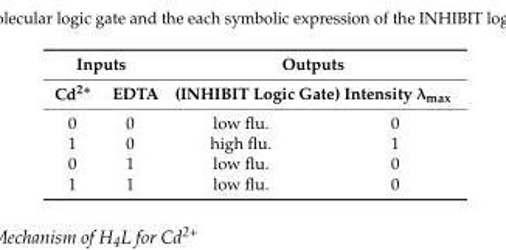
<table><thead><tr><td colspan="2">Inputs</td><td rowspan="2" colspan="2">Outputs (INHIBIT Logic Gate) Intensity λmax</td></tr><tr><td rowspan="2">Cd2+ 0</td><td rowspan="2">EDTA 0</td></tr><tr><td>low flu.</td><td>0</td></tr></thead><tbody><tr><td>1</td><td>0</td><td>high flu.</td><td>1</td></tr><tr><td>0</td><td>1</td><td>low flu.</td><td>0</td></tr><tr><td>1</td><td>1</td><td>low flu.</td><td>0</td></tr></tbody></table>